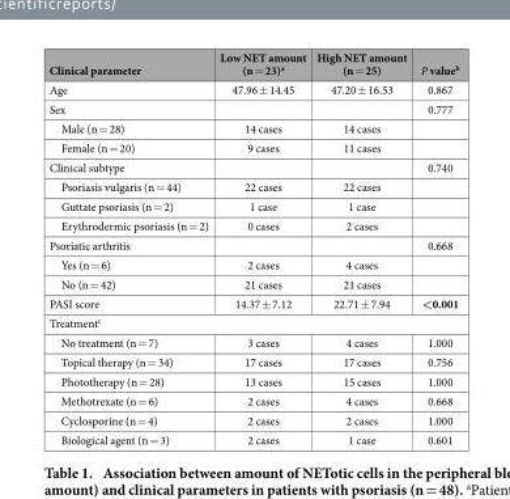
<table><thead><tr><td>Clinical parameter</td><td>Low NET amount (n = 23)<sup>a</sup></td><td>High NET amount (n = 25)</td><td>P value<sup>b</sup></td></tr></thead><tbody><tr><td>Age</td><td>47.96 ± 14.45</td><td>47.20 ± 16.53</td><td>0.867</td></tr><tr><td>Sex</td><td></td><td></td><td>0.777</td></tr><tr><td>Male (n = 28)</td><td>14 cases</td><td>14 cases</td><td></td></tr><tr><td>Female (n = 20)</td><td>9 cases</td><td>11 cases</td><td></td></tr><tr><td>Clinical subtype</td><td></td><td></td><td>0.740</td></tr><tr><td>Psoriasis vulgaris (n = 44)</td><td>22 cases</td><td>22 cases</td><td></td></tr><tr><td>Guttate psoriasis (n = 2)</td><td>1 case</td><td>1 case</td><td></td></tr><tr><td>Erythrodermic psoriasis (n = 2)</td><td>0 cases</td><td>2 cases</td><td></td></tr><tr><td>Psoriatic arthritis</td><td></td><td></td><td>0.668</td></tr><tr><td>Yes (n = 6)</td><td>2 cases</td><td>4 cases</td><td></td></tr><tr><td>No (n = 42)</td><td>21 cases</td><td>21 cases</td><td></td></tr><tr><td>PASI score</td><td>14.37 ± 7.12</td><td>22.71 ± 7.94</td><td>&lt;0.001</td></tr><tr><td colspan="4">Treatment<sup>c</sup></td></tr><tr><td>No treatment (n = 7)</td><td>3 cases</td><td>4 cases</td><td>1.000</td></tr><tr><td>Topical therapy (n = 34)</td><td>17 cases</td><td>17 cases</td><td>0.756</td></tr><tr><td>Phototherapy (n = 28)</td><td>13 cases</td><td>15 cases</td><td>1.000</td></tr><tr><td>Methotrexate (n = 6)</td><td>2 cases</td><td>4 cases</td><td>0.668</td></tr><tr><td>Cyclosporine (n = 4)</td><td>2 cases</td><td>2 cases</td><td>1.000</td></tr><tr><td>Biological agent (n = 3)</td><td>2 cases</td><td>1 case</td><td>0.601</td></tr></tbody></table>